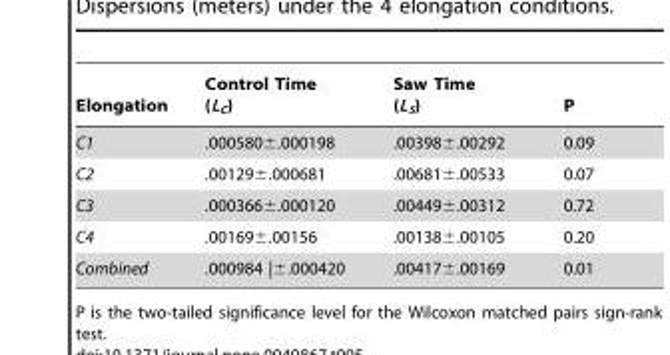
<table><thead><tr><td>Elongation</td><td>Control Time (L<sub>C</sub>)</td><td>Saw Time (L<sub>S</sub>)</td><td>P</td></tr></thead><tbody><tr><td>C1</td><td>.000580±.000198</td><td>.00398±.00292</td><td>0.09</td></tr><tr><td>C2</td><td>.00129±.000681</td><td>.00681±.00533</td><td>0.07</td></tr><tr><td>C3</td><td>.000366±.000120</td><td>.00449±.00312</td><td>0.72</td></tr><tr><td>C4</td><td>.00169±.00156</td><td>.00138±.00105</td><td>0.20</td></tr><tr><td>Combined</td><td>.000984 |±.000420</td><td>.00417±.00169</td><td>0.01</td></tr></tbody></table>